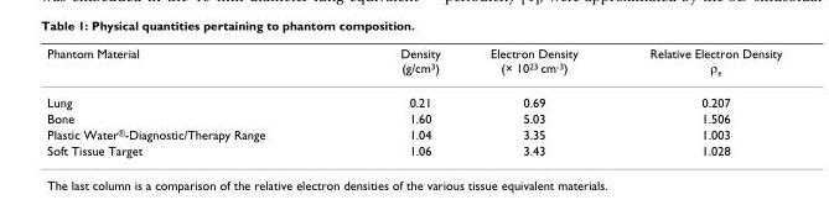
<table><thead><tr><td>Phantom Material</td><td>Density (g/cm<sup>3</sup>)</td><td>Electron Density (× 10<sup>23</sup> cm<sup>-3</sup>)</td><td>Relative Electron Density ρ<sub>e</sub></td></tr></thead><tbody><tr><td>Lung</td><td>0.21</td><td>0.69</td><td>0.207</td></tr><tr><td>Bone</td><td>1.60</td><td>5.03</td><td>1.506</td></tr><tr><td>Plastic Water<sup>®</sup>-Diagnostic/Therapy Range</td><td>1.04</td><td>3.35</td><td>1.003</td></tr><tr><td>Soft Tissue Target</td><td>1.06</td><td>3.43</td><td>1.028</td></tr></tbody></table>